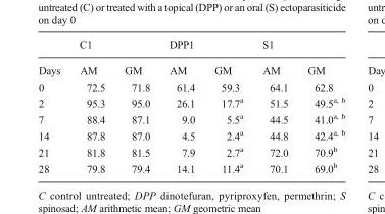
<table><thead><tr><td rowspan="2">Days</td><td colspan="2">C1</td><td colspan="2">DPP1</td><td colspan="2">S1</td></tr><tr><td>AM</td><td>GM</td><td>AM</td><td>GM</td><td>AM</td><td>GM</td></tr></thead><tbody><tr><td>0</td><td>72.5</td><td>71.8</td><td>61.4</td><td>59.3</td><td>64.1</td><td>62.8</td></tr><tr><td>2</td><td>95.3</td><td>95.0</td><td>26.1</td><td>17.7<sup>a</sup></td><td>51.5</td><td>49.5<sup>a, b</sup></td></tr><tr><td>7</td><td>88.4</td><td>87.1</td><td>9.0</td><td>5.5<sup>a</sup></td><td>44.5</td><td>41.0<sup>a, b</sup></td></tr><tr><td>14</td><td>87.8</td><td>87.0</td><td>4.5</td><td>2.4<sup>a</sup></td><td>44.8</td><td>42.4<sup>a, b</sup></td></tr><tr><td>21</td><td>81.8</td><td>81.5</td><td>7.9</td><td>2.7<sup>a</sup></td><td>72.0</td><td>70.9<sup>b</sup></td></tr><tr><td>28</td><td>79.8</td><td>79.4</td><td>14.1</td><td>11.4<sup>a</sup></td><td>70.1</td><td>69.0<sup>b</sup></td></tr></tbody></table>